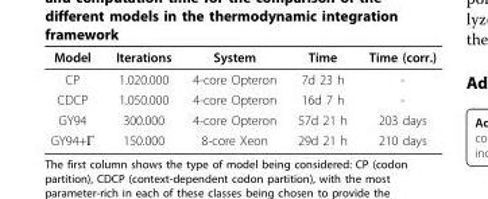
<table><thead><tr><td>Model</td><td>Iterations</td><td>System</td><td>Time</td><td>Time (corr.)</td></tr></thead><tbody><tr><td>CP</td><td>1.020.000</td><td>4-core Opteron</td><td>7d 23 h</td><td>-</td></tr><tr><td>CDCP</td><td>1.050.000</td><td>4-core Opteron</td><td>16d 7 h</td><td>-</td></tr><tr><td>GY94</td><td>300.000</td><td>4-core Opteron</td><td>57d 21 h</td><td>203 days</td></tr><tr><td>GY94+Γ</td><td>150.000</td><td>8-core Xeon</td><td>29d 21 h</td><td>210 days</td></tr></tbody></table>